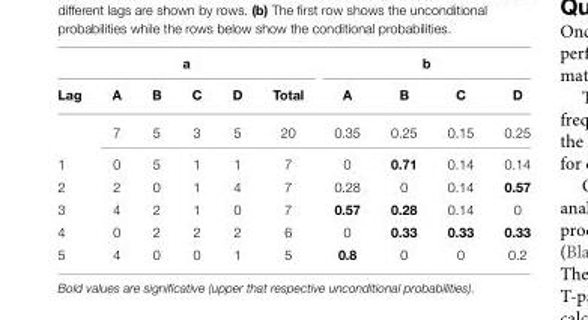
<table><thead><tr><td colspan="6">a</td><td colspan="4">b</td></tr><tr><td>Lag</td><td>A</td><td>B</td><td>C</td><td>D</td><td>Total</td><td>A</td><td>B</td><td>C</td><td>D</td></tr></thead><tbody><tr><td></td><td>7</td><td>5</td><td>3</td><td>5</td><td>20</td><td>0.35</td><td>0.25</td><td>0.15</td><td>0.25</td></tr><tr><td>1</td><td>0</td><td>5</td><td>1</td><td>1</td><td>7</td><td>0</td><td>0.71</td><td>0.14</td><td>0.14</td></tr><tr><td>2</td><td>2</td><td>0</td><td>1</td><td>4</td><td>7</td><td>0.28</td><td>0</td><td>0.14</td><td>0.57</td></tr><tr><td>3</td><td>4</td><td>2</td><td>1</td><td>0</td><td>7</td><td>0.57</td><td>0.28</td><td>0.14</td><td>0</td></tr><tr><td>4</td><td>0</td><td>2</td><td>2</td><td>2</td><td>6</td><td>0</td><td>0.33</td><td>0.33</td><td>0.33</td></tr><tr><td>5</td><td>4</td><td>0</td><td>0</td><td>1</td><td>5</td><td>0.8</td><td>0</td><td>0</td><td>0.2</td></tr></tbody></table>